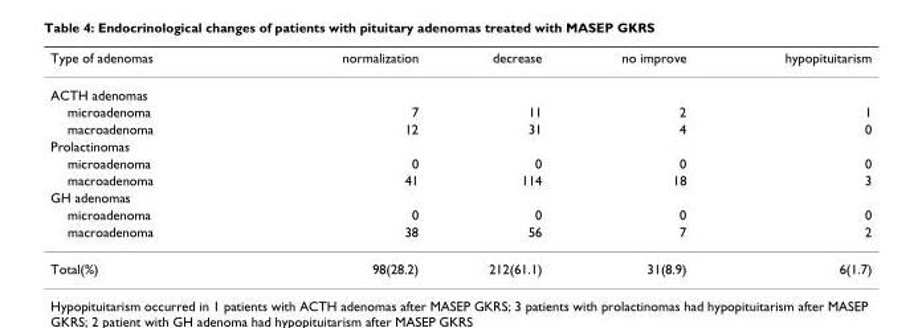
<table><thead><tr><td>Type of adenomas</td><td>normalization</td><td>decrease</td><td>no improve</td><td>hypopituitarism</td></tr></thead><tbody><tr><td colspan="5">ACTH adenomas</td></tr><tr><td>microadenoma</td><td>7</td><td>11</td><td>2</td><td>1</td></tr><tr><td>macroadenoma</td><td>12</td><td>31</td><td>4</td><td>0</td></tr><tr><td colspan="5">Prolactinomas</td></tr><tr><td>microadenoma</td><td>0</td><td>0</td><td>0</td><td>0</td></tr><tr><td>macroadenoma</td><td>41</td><td>114</td><td>18</td><td>3</td></tr><tr><td colspan="5">GH adenomas</td></tr><tr><td>microadenoma</td><td>0</td><td>0</td><td>0</td><td>0</td></tr><tr><td>macroadenoma</td><td>38</td><td>56</td><td>7</td><td>2</td></tr><tr><td>Total(%)</td><td>98(28.2)</td><td>212(61.1)</td><td>31(8.9)</td><td>6(1.7)</td></tr></tbody></table>